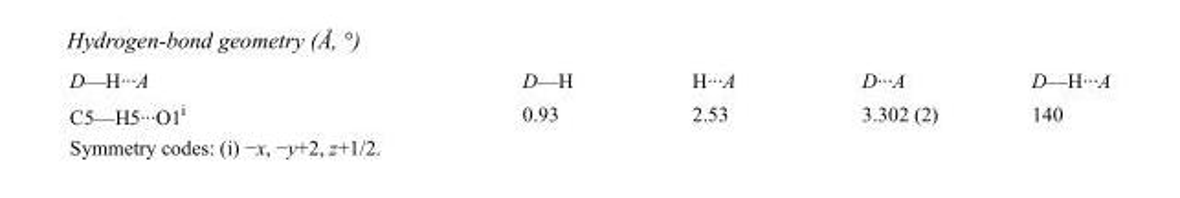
<table><tbody><tr><td>D—H···A</td><td>D—H</td><td>H···A</td><td>D···A</td><td>D—H···A</td></tr><tr><td>C5—H5···O1<sup>i</sup></td><td>0.93</td><td>2.53</td><td>3.302 (2)</td><td>140</td></tr></tbody></table>